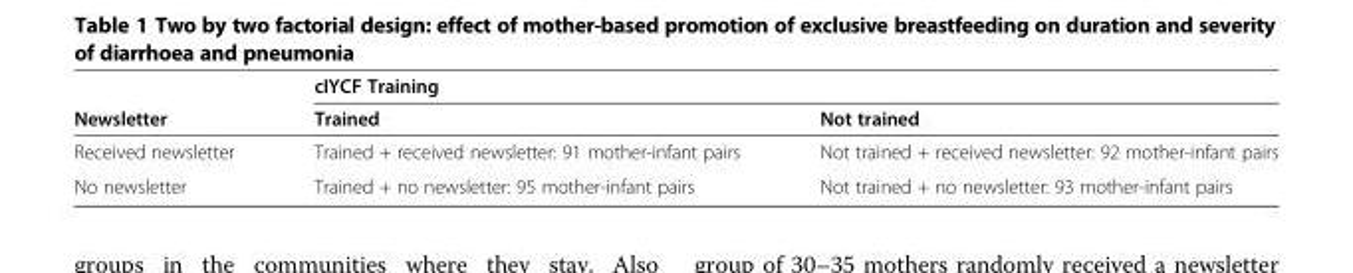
<table><thead><tr><td rowspan="2">Newsletter</td><td colspan="2">cIYCF Training</td></tr><tr><td>Trained</td><td>Not trained</td></tr></thead><tbody><tr><td>Received newsletter</td><td>Trained + received newsletter: 91 mother-infant pairs</td><td>Not trained + received newsletter: 92 mother-infant pairs</td></tr><tr><td>No newsletter</td><td>Trained + no newsletter: 95 mother-infant pairs</td><td>Not trained + no newsletter: 93 mother-infant pairs</td></tr></tbody></table>